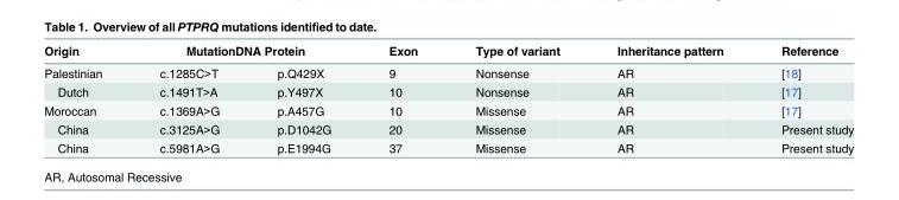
<table><thead><tr><td rowspan="2">Origin Palestinian</td><td colspan="2">MutationDNA Protein</td><td rowspan="2">Exon 9</td><td rowspan="2">Type of variant Nonsense</td><td rowspan="2">Inheritance pattern AR</td><td rowspan="2">Reference [18]</td></tr><tr><td>c.1285C&gt;T</td><td>p.Q429X</td></tr></thead><tbody><tr><td>Dutch</td><td>c.1491T&gt;A</td><td>p.Y497X</td><td>10</td><td>Nonsense</td><td>AR</td><td>[17]</td></tr><tr><td>Moroccan</td><td>c.1369A&gt;G</td><td>p.A457G</td><td>10</td><td>Missense</td><td>AR</td><td>[17]</td></tr><tr><td>China</td><td>c.3125A&gt;G</td><td>p.D1042G</td><td>20</td><td>Missense</td><td>AR</td><td>Present study</td></tr><tr><td>China</td><td>c.5981A&gt;G</td><td>p.E1994G</td><td>37</td><td>Missense</td><td>AR</td><td>Present study</td></tr></tbody></table>